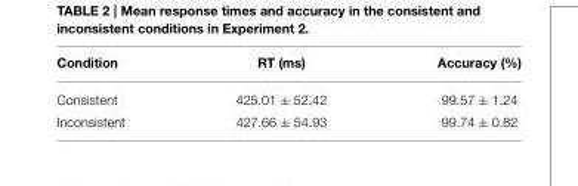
<table><thead><tr><td>Condition</td><td>RT (ms)</td><td>Accuracy (%)</td></tr></thead><tbody><tr><td>Consistent</td><td>425.01 ± 52.42</td><td>99.57 ± 1.24</td></tr><tr><td>Inconsistent</td><td>427.66 ± 54.93</td><td>99.74 ± 0.82</td></tr></tbody></table>